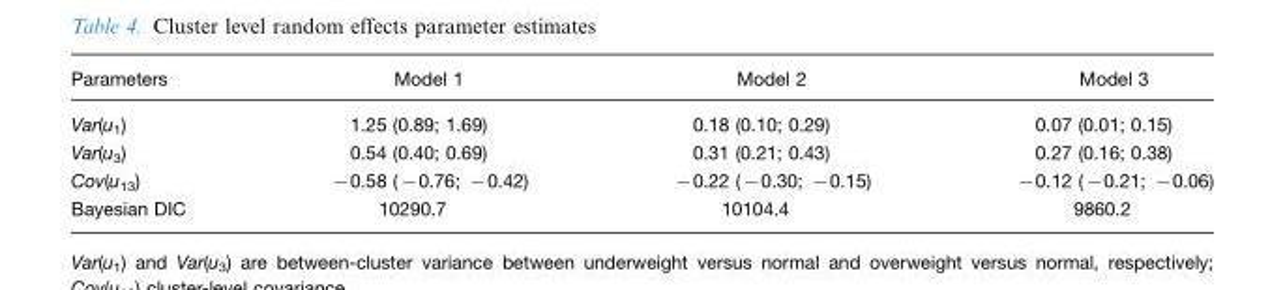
<table><thead><tr><td>Parameters</td><td>Model 1</td><td>Model 2</td><td>Model 3</td></tr></thead><tbody><tr><td>Var(u<sub>1</sub>)</td><td>1.25 (0.89; 1.69)</td><td>0.18 (0.10; 0.29)</td><td>0.07 (0.01; 0.15)</td></tr><tr><td>Var(u<sub>3</sub>)</td><td>0.54 (0.40; 0.69)</td><td>0.31 (0.21; 0.43)</td><td>0.27 (0.16; 0.38)</td></tr><tr><td>Cov(u<sub>13</sub>)</td><td>−0.58 (−0.76; −0.42)</td><td>−0.22 (−0.30; −0.15)</td><td>−0.12 (−0.21; −0.06)</td></tr><tr><td>Bayesian DIC</td><td>10290.7</td><td>10104.4</td><td>9860.2</td></tr></tbody></table>